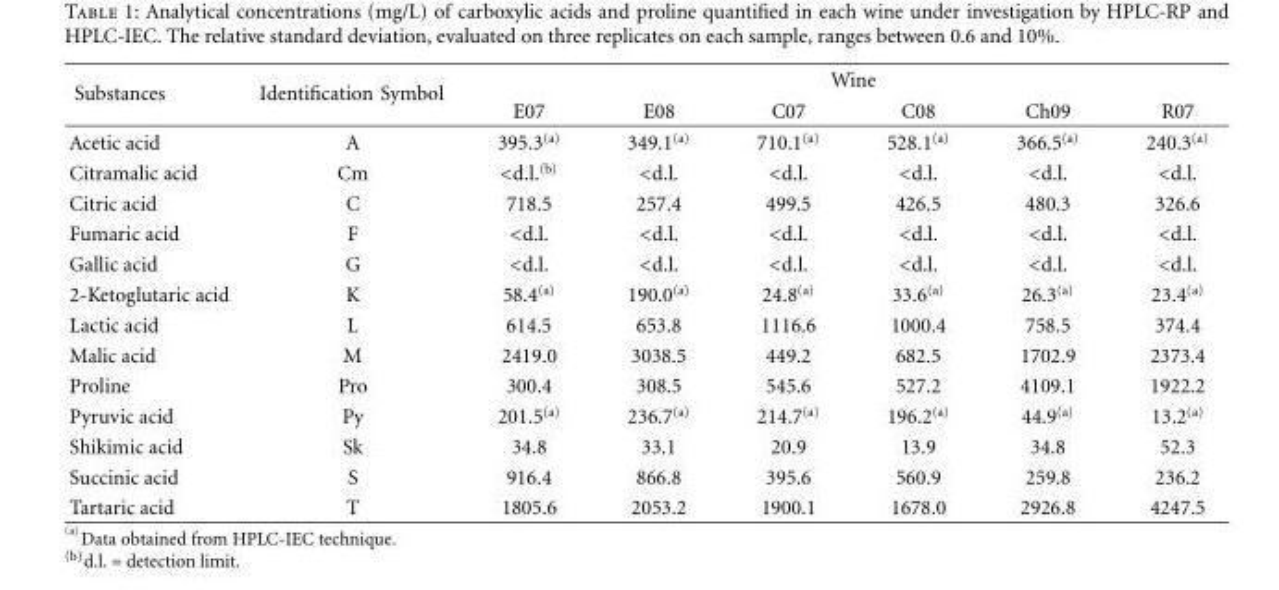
<table><thead><tr><td rowspan="2">Substances</td><td rowspan="2">Identification Symbol</td><td colspan="6">Wine</td></tr><tr><td>E07</td><td>E08</td><td>C07</td><td>C08</td><td>Ch09</td><td>R07</td></tr></thead><tbody><tr><td>Acetic acid</td><td>A</td><td>395.3<sup>(a)</sup></td><td>349.1<sup>(a)</sup></td><td>710.1<sup>(a)</sup></td><td>528.1<sup>(a)</sup></td><td>366.5<sup>(a)</sup></td><td>240.3<sup>(a)</sup></td></tr><tr><td>Citramalic acid</td><td>Cm</td><td>&lt;d.l.<sup>(b)</sup></td><td>&lt;d.l.</td><td>&lt;d.l.</td><td>&lt;d.l.</td><td>&lt;d.l.</td><td>&lt;d.l.</td></tr><tr><td>Citric acid</td><td>C</td><td>718.5</td><td>257.4</td><td>499.5</td><td>426.5</td><td>480.3</td><td>326.6</td></tr><tr><td>Fumaric acid</td><td>F</td><td>&lt;d.l.</td><td>&lt;d.l.</td><td>&lt;d.l.</td><td>&lt;d.l.</td><td>&lt;d.l.</td><td>&lt;d.l.</td></tr><tr><td>Gallic acid</td><td>G</td><td>&lt;d.l.</td><td>&lt;d.l.</td><td>&lt;d.l.</td><td>&lt;d.l.</td><td>&lt;d.l.</td><td>&lt;d.l.</td></tr><tr><td>2-Ketoglutaric acid</td><td>K</td><td>58.4<sup>(a)</sup></td><td>190.0<sup>(a)</sup></td><td>24.8<sup>(a)</sup></td><td>33.6<sup>(a)</sup></td><td>26.3<sup>(a)</sup></td><td>23.4<sup>(a)</sup></td></tr><tr><td>Lactic acid</td><td>L</td><td>614.5</td><td>653.8</td><td>1116.6</td><td>1000.4</td><td>758.5</td><td>374.4</td></tr><tr><td>Malic acid</td><td>M</td><td>2419.0</td><td>3038.5</td><td>449.2</td><td>682.5</td><td>1702.9</td><td>2373.4</td></tr><tr><td>Proline</td><td>Pro</td><td>300.4</td><td>308.5</td><td>545.6</td><td>527.2</td><td>4109.1</td><td>1922.2</td></tr><tr><td>Pyruvic acid</td><td>Py</td><td>201.5<sup>(a)</sup></td><td>236.7<sup>(a)</sup></td><td>214.7<sup>(a)</sup></td><td>196.2<sup>(a)</sup></td><td>44.9<sup>(a)</sup></td><td>13.2<sup>(a)</sup></td></tr><tr><td>Shikimic acid</td><td>Sk</td><td>34.8</td><td>33.1</td><td>20.9</td><td>13.9</td><td>34.8</td><td>52.3</td></tr><tr><td>Succinic acid</td><td>S</td><td>916.4</td><td>866.8</td><td>395.6</td><td>560.9</td><td>259.8</td><td>236.2</td></tr><tr><td>Tartaric acid</td><td>T</td><td>1805.6</td><td>2053.2</td><td>1900.1</td><td>1678.0</td><td>2926.8</td><td>4247.5</td></tr></tbody></table>